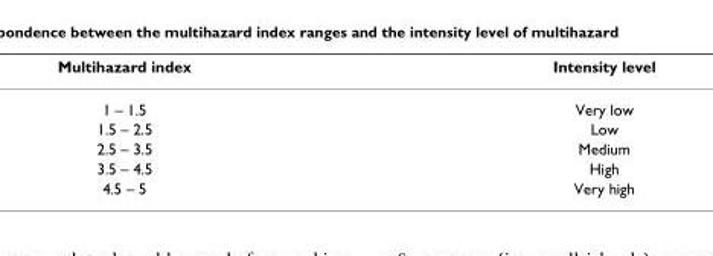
<table><thead><tr><td>Multihazard index</td><td>Intensity level</td></tr></thead><tbody><tr><td>1 – 1.5</td><td>Very low</td></tr><tr><td>1.5 – 2.5</td><td>Low</td></tr><tr><td>2.5 – 3.5</td><td>Medium</td></tr><tr><td>3.5 – 4.5</td><td>High</td></tr><tr><td>4.5 – 5</td><td>Very high</td></tr></tbody></table>